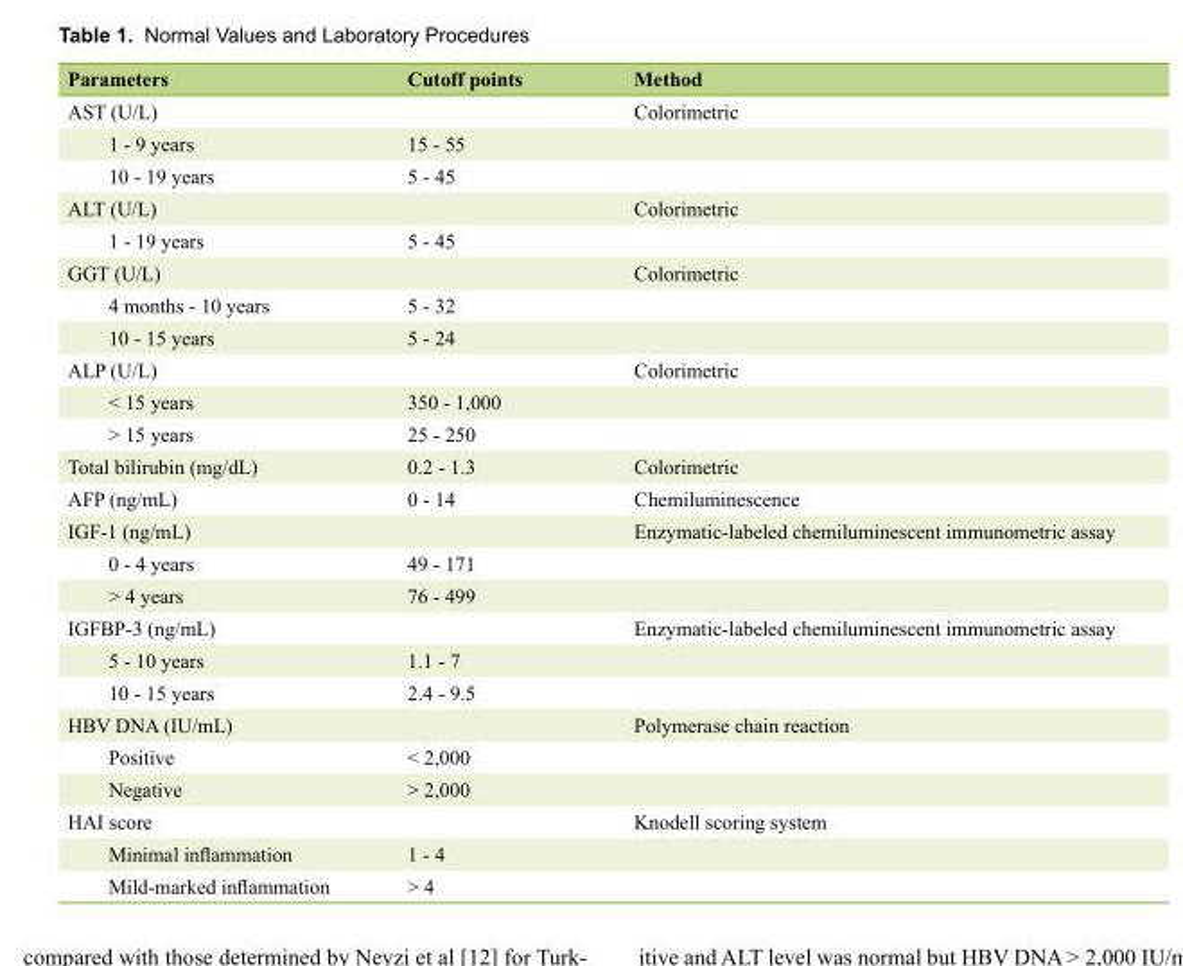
<table><thead><tr><td>Parameters</td><td>Cutoff points</td><td>Method</td></tr></thead><tbody><tr><td>AST (U/L)</td><td></td><td>Colorimetric</td></tr><tr><td>1 - 9 years</td><td>15 - 55</td><td></td></tr><tr><td>10 - 19 years</td><td>5 - 45</td><td></td></tr><tr><td>ALT (U/L)</td><td></td><td>Colorimetric</td></tr><tr><td>1 - 19 years</td><td>5 - 45</td><td></td></tr><tr><td>GGT (U/L)</td><td></td><td>Colorimetric</td></tr><tr><td>4 months - 10 years</td><td>5 - 32</td><td></td></tr><tr><td>10 - 15 years</td><td>5 - 24</td><td></td></tr><tr><td>ALP (U/L)</td><td></td><td>Colorimetric</td></tr><tr><td>&lt; 15 years</td><td>350 - 1,000</td><td></td></tr><tr><td>&gt; 15 years</td><td>25 - 250</td><td></td></tr><tr><td>Total bilirubin (mg/dL)</td><td>0.2 - 1.3</td><td>Colorimetric</td></tr><tr><td>AFP (ng/mL)</td><td>0 - 14</td><td>Chemiluminescence</td></tr><tr><td>IGF-1 (ng/mL)</td><td></td><td>Enzymatic-labeled chemiluminescent immunometric assay</td></tr><tr><td>0 - 4 years</td><td>49 - 171</td><td></td></tr><tr><td>&gt; 4 years</td><td>76 - 499</td><td></td></tr><tr><td>IGFBP-3 (ng/mL)</td><td></td><td>Enzymatic-labeled chemiluminescent immunometric assay</td></tr><tr><td>5 - 10 years</td><td>1.1 - 7</td><td></td></tr><tr><td>10 - 15 years</td><td>2.4 - 9.5</td><td></td></tr><tr><td>HBV DNA (IU/mL)</td><td></td><td>Polymerase chain reaction</td></tr><tr><td>Positive</td><td>&lt; 2,000</td><td></td></tr><tr><td>Negative</td><td>&gt; 2,000</td><td></td></tr><tr><td>HAI score</td><td></td><td>Knodell scoring system</td></tr><tr><td>Minimal inflammation</td><td>1 - 4</td><td></td></tr><tr><td>Mild-marked inflammation</td><td>&gt; 4</td><td></td></tr></tbody></table>